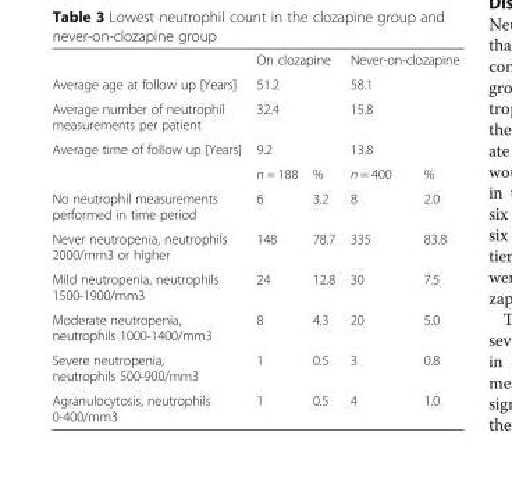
<table><thead><tr><td></td><td colspan="2">On clozapine</td><td colspan="2">Never-on-clozapine</td></tr></thead><tbody><tr><td>Average age at follow up [Years]</td><td colspan="2">51.2</td><td colspan="2">58.1</td></tr><tr><td>Average number of neutrophil measurements per patient</td><td colspan="2">32.4</td><td colspan="2">15.8</td></tr><tr><td rowspan="2">Average time of follow up [Years]</td><td colspan="2">9.2</td><td colspan="2">13.8</td></tr><tr><td>n = 188</td><td>%</td><td>n = 400</td><td>%</td></tr><tr><td>No neutrophil measurements performed in time period</td><td>6</td><td>3.2</td><td>8</td><td>2.0</td></tr><tr><td>Never neutropenia, neutrophils 2000/mm3 or higher</td><td>148</td><td>78.7</td><td>335</td><td>83.8</td></tr><tr><td>Mild neutropenia, neutrophils 1500-1900/mm3</td><td>24</td><td>12.8</td><td>30</td><td>7.5</td></tr><tr><td>Moderate neutropenia, neutrophils 1000-1400/mm3</td><td>8</td><td>4.3</td><td>20</td><td>5.0</td></tr><tr><td>Severe neutropenia, neutrophils 500-900/mm3</td><td>1</td><td>0.5</td><td>3</td><td>0.8</td></tr><tr><td>Agranulocytosis, neutrophils 0-400/mm3</td><td>1</td><td>0.5</td><td>4</td><td>1.0</td></tr></tbody></table>